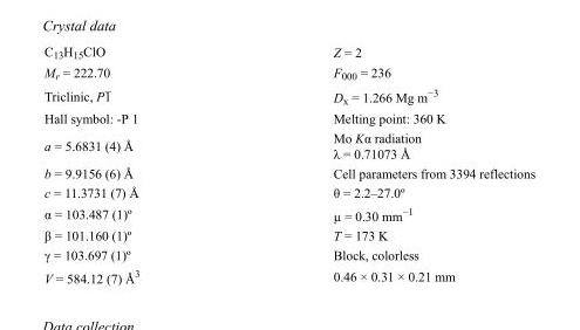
<table><tbody><tr><td>C<sub>13</sub>H<sub>15</sub>ClO</td><td>Z = 2</td></tr><tr><td>M<sub>r</sub> = 222.70</td><td>F000 = 236</td></tr><tr><td>Triclinic, P1</td><td>D<sub>x</sub> = 1.266 Mg m<sup>−3</sup></td></tr><tr><td>Hall symbol: -P 1</td><td>Melting point: 360 K</td></tr><tr><td>a = 5.6831 (4) Å</td><td>Mo Kα radiation λ = 0.71073 Å</td></tr><tr><td>b = 9.9156 (6) Å</td><td>Cell parameters from 3394 reflections</td></tr><tr><td>c = 11.3731 (7) Å</td><td>θ = 2.2–27.0º</td></tr><tr><td>α = 103.487 (1)º</td><td>µ = 0.30 mm<sup>−1</sup></td></tr><tr><td>β = 101.160 (1)º</td><td>T = 173 K</td></tr><tr><td>γ = 103.697 (1)º</td><td>Block, colorless</td></tr><tr><td>V = 584.12 (7) Å<sup>3</sup></td><td>0.46 × 0.31 × 0.21 mm</td></tr></tbody></table>